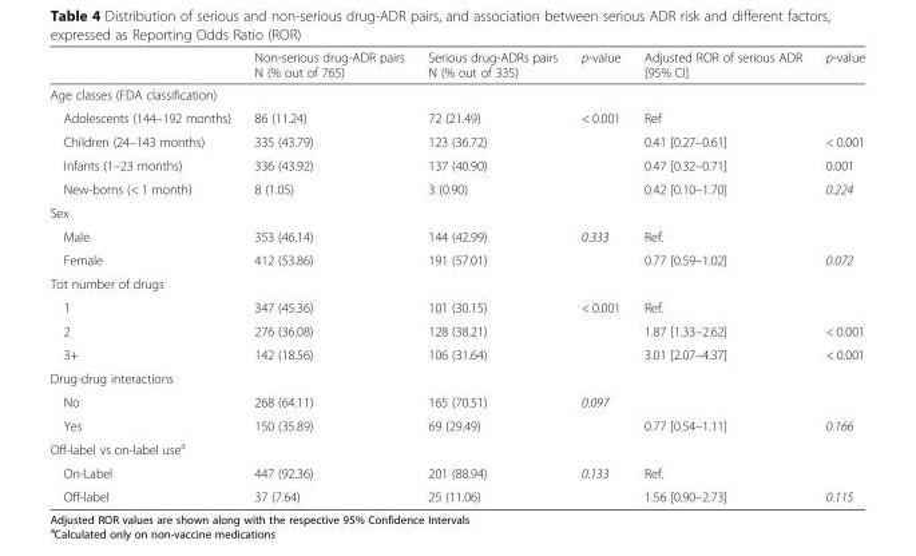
<table><thead><tr><td></td><td>Non-serious drug-ADR pairs N (% out of 765)</td><td>Serious drug-ADRs pairs N (% out of 335)</td><td>p-value</td><td>Adjusted ROR of serious ADR [95% CI]</td><td>p-value</td></tr></thead><tbody><tr><td colspan="6">Age classes (FDA classification)</td></tr><tr><td>Adolescents (144–192 months)</td><td>86 (11.24)</td><td>72 (21.49)</td><td>&lt; 0.001</td><td>Ref</td><td></td></tr><tr><td>Children (24–143 months)</td><td>335 (43.79)</td><td>123 (36.72)</td><td></td><td>0.41 [0.27–0.61]</td><td>&lt; 0.001</td></tr><tr><td>Infants (1–23 months)</td><td>336 (43.92)</td><td>137 (40.90)</td><td></td><td>0.47 [0.32–0.71]</td><td>0.001</td></tr><tr><td>New-borns (&lt; 1 month)</td><td>8 (1.05)</td><td>3 (0.90)</td><td></td><td>0.42 [0.10–1.70]</td><td>0.224</td></tr><tr><td colspan="6">Sex</td></tr><tr><td>Male</td><td>353 (46.14)</td><td>144 (42.99)</td><td>0.333</td><td>Ref.</td><td></td></tr><tr><td>Female</td><td>412 (53.86)</td><td>191 (57.01)</td><td></td><td>0.77 [0.59–1.02]</td><td>0.072</td></tr><tr><td colspan="6">Tot number of drugs</td></tr><tr><td>1</td><td>347 (45.36)</td><td>101 (30.15)</td><td>&lt; 0.001</td><td>Ref.</td><td></td></tr><tr><td>2</td><td>276 (36.08)</td><td>128 (38.21)</td><td></td><td>1.87 [1.33–2.62]</td><td>&lt; 0.001</td></tr><tr><td>3+</td><td>142 (18.56)</td><td>106 (31.64)</td><td></td><td>3.01 [2.07–4.37]</td><td>&lt; 0.001</td></tr><tr><td colspan="6">Drug-drug interactions</td></tr><tr><td>No</td><td>268 (64.11)</td><td>165 (70.51)</td><td>0.097</td><td></td><td></td></tr><tr><td>Yes</td><td>150 (35.89)</td><td>69 (29.49)</td><td></td><td>0.77 [0.54–1.11]</td><td>0.166</td></tr><tr><td colspan="6">Off-label vs on-label use<sup>a</sup></td></tr><tr><td>On-Label</td><td>447 (92.36)</td><td>201 (88.94)</td><td>0.133</td><td>Ref.</td><td></td></tr><tr><td>Off-label</td><td>37 (7.64)</td><td>25 (11.06)</td><td></td><td>1.56 [0.90–2.73]</td><td>0.115</td></tr></tbody></table>